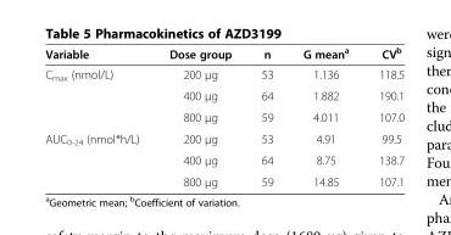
<table><thead><tr><td>Variable</td><td>Dose group</td><td>n</td><td>G mean<sup>a</sup></td><td>CV<sup>b</sup></td></tr></thead><tbody><tr><td rowspan="3">C<sub>max</sub> (nmol/L)</td><td>200 μg</td><td>53</td><td>1.136</td><td>118.5</td></tr><tr><td>400 μg</td><td>64</td><td>1.882</td><td>190.1</td></tr><tr><td>800 μg</td><td>59</td><td>4.011</td><td>107.0</td></tr><tr><td rowspan="3">AUC<sub>0-24</sub> (nmol*h/L)</td><td>200 μg</td><td>53</td><td>4.91</td><td>99.5</td></tr><tr><td>400 μg</td><td>64</td><td>8.75</td><td>138.7</td></tr><tr><td>800 μg</td><td>59</td><td>14.85</td><td>107.1</td></tr></tbody></table>